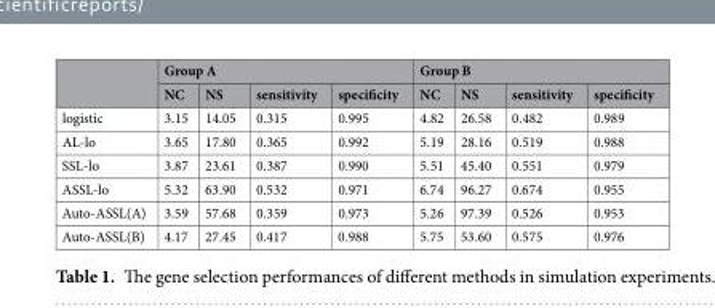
<table><thead><tr><td rowspan="2"></td><td colspan="4">Group A</td><td colspan="4">Group B</td></tr><tr><td>NC</td><td>NS</td><td>sensitivity</td><td>specificity</td><td>NC</td><td>NS</td><td>sensitivity</td><td>specificity</td></tr></thead><tbody><tr><td>logistic</td><td>3.15</td><td>14.05</td><td>0.315</td><td>0.995</td><td>4.82</td><td>26.58</td><td>0.482</td><td>0.989</td></tr><tr><td>AL-lo</td><td>3.65</td><td>17.80</td><td>0.365</td><td>0.992</td><td>5.19</td><td>28.16</td><td>0.519</td><td>0.988</td></tr><tr><td>SSL-lo</td><td>3.87</td><td>23.61</td><td>0.387</td><td>0.990</td><td>5.51</td><td>45.40</td><td>0.551</td><td>0.979</td></tr><tr><td>ASSL-lo</td><td>5.32</td><td>63.90</td><td>0.532</td><td>0.971</td><td>6.74</td><td>96.27</td><td>0.674</td><td>0.955</td></tr><tr><td>Auto-ASSL(A)</td><td>3.59</td><td>57.68</td><td>0.359</td><td>0.973</td><td>5.26</td><td>97.39</td><td>0.526</td><td>0.953</td></tr><tr><td>Auto-ASSL(B)</td><td>4.17</td><td>27.45</td><td>0.417</td><td>0.988</td><td>5.75</td><td>53.60</td><td>0.575</td><td>0.976</td></tr></tbody></table>